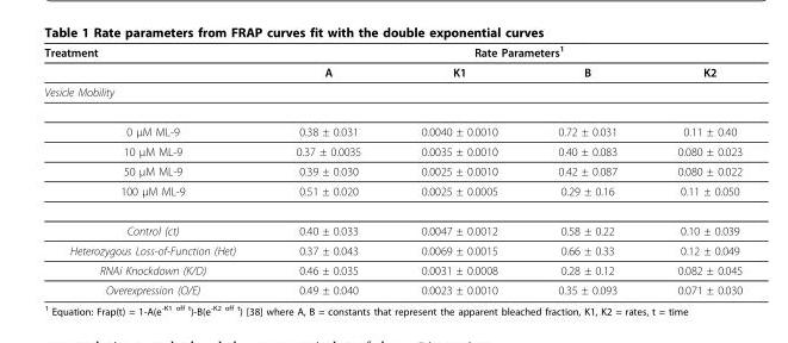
<table><thead><tr><td rowspan="2">Treatment</td><td colspan="4">Rate Parameters1</td></tr><tr><td>A</td><td>K1</td><td>B</td><td>K2</td></tr></thead><tbody><tr><td colspan="5">Vesicle Mobility</td></tr><tr><td>0 μM ML-9</td><td>0.38 ± 0.031</td><td>0.0040 ± 0.0010</td><td>0.72 ± 0.031</td><td>0.11 ± 0.40</td></tr><tr><td>10 μM ML-9</td><td>0.37 ± 0.0035</td><td>0.0035 ± 0.0010</td><td>0.40 ± 0.083</td><td>0.080 ± 0.023</td></tr><tr><td>50 μM ML-9</td><td>0.39 ± 0.030</td><td>0.0025 ± 0.0010</td><td>0.42 ± 0.087</td><td>0.080 ± 0.022</td></tr><tr><td>100 μM ML-9</td><td>0.51 ± 0.020</td><td>0.0025 ± 0.0005</td><td>0.29 ± 0.16</td><td>0.11 ± 0.050</td></tr><tr><td>Control (ct)</td><td>0.40 ± 0.033</td><td>0.0047 ± 0.0012</td><td>0.58 ± 0.22</td><td>0.10 ± 0.039</td></tr><tr><td>Heterozygous Loss-of-Function (Het)</td><td>0.37 ± 0.043</td><td>0.0069 ± 0.0015</td><td>0.66 ± 0.33</td><td>0.12 ± 0.049</td></tr><tr><td>RNAi Knockdown (K/D)</td><td>0.46 ± 0.035</td><td>0.0031 ± 0.0008</td><td>0.28 ± 0.12</td><td>0.082 ± 0.045</td></tr><tr><td>Overexpression (O/E)</td><td>0.49 ± 0.040</td><td>0.0023 ± 0.0010</td><td>0.35 ± 0.093</td><td>0.071 ± 0.030</td></tr></tbody></table>